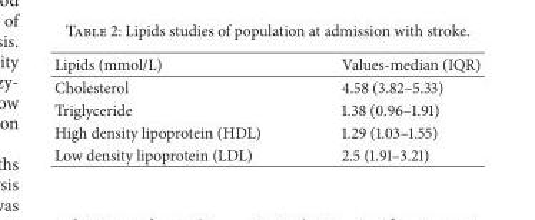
<table><thead><tr><td>Lipids (mmol/L)</td><td>Values-median (IQR)</td></tr></thead><tbody><tr><td>Cholesterol</td><td>4.58 (3.82–5.33)</td></tr><tr><td>Triglyceride</td><td>1.38 (0.96–1.91)</td></tr><tr><td>High density lipoprotein (HDL)</td><td>1.29 (1.03–1.55)</td></tr><tr><td>Low density lipoprotein (LDL)</td><td>2.5 (1.91–3.21)</td></tr></tbody></table>